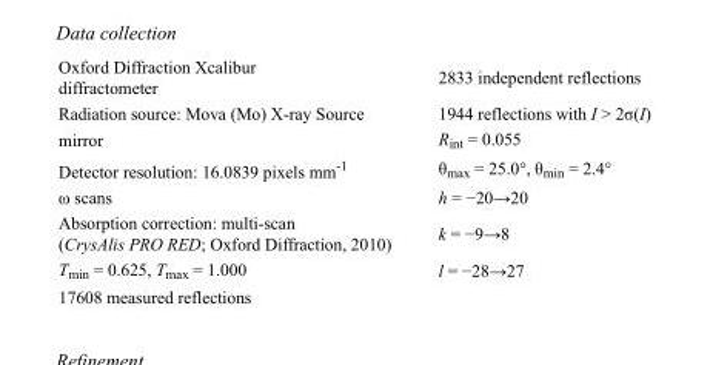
<table><tbody><tr><td>Oxford Diffraction Xcalibur diffractometer</td><td>2833 independent reflections</td></tr><tr><td>Radiation source: Mova (Mo) X-ray Source</td><td>1944 reflections with I &gt; 2σ(I)</td></tr><tr><td>mirror</td><td>R<sub>int</sub> = 0.055</td></tr><tr><td>Detector resolution: 16.0839 pixels mm<sup>-1</sup></td><td>θ<sub>max</sub> = 25.0°, θ<sub>min</sub> = 2.4°</td></tr><tr><td>ω scans</td><td>h = −20→20</td></tr><tr><td>Absorption correction: multi-scan (CrysAlis PRO RED; Oxford Diffraction, 2010)</td><td>k = −9→8</td></tr><tr><td>T<sub>min</sub> = 0.625, T<sub>max</sub> = 1.000</td><td>l = −28→27</td></tr><tr><td>17608 measured reflections</td><td></td></tr></tbody></table>